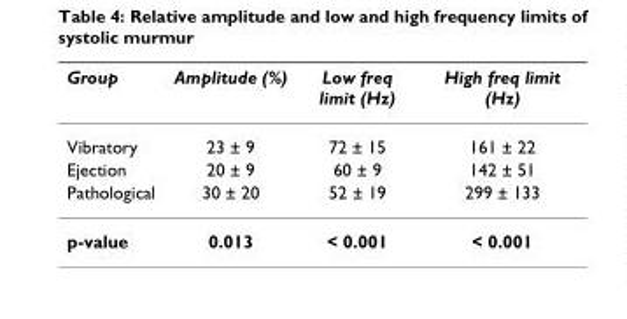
<table><thead><tr><td>Group</td><td>Amplitude (%)</td><td>Low freq limit (Hz)</td><td>High freq limit (Hz)</td></tr></thead><tbody><tr><td>Vibratory</td><td>23 ± 9</td><td>72 ± 15</td><td>161 ± 22</td></tr><tr><td>Ejection</td><td>20 ± 9</td><td>60 ± 9</td><td>142 ± 51</td></tr><tr><td>Pathological</td><td>30 ± 20</td><td>52 ± 19</td><td>299 ± 133</td></tr><tr><td>p-value</td><td>0.013</td><td>&lt; 0.001</td><td>&lt; 0.001</td></tr></tbody></table>